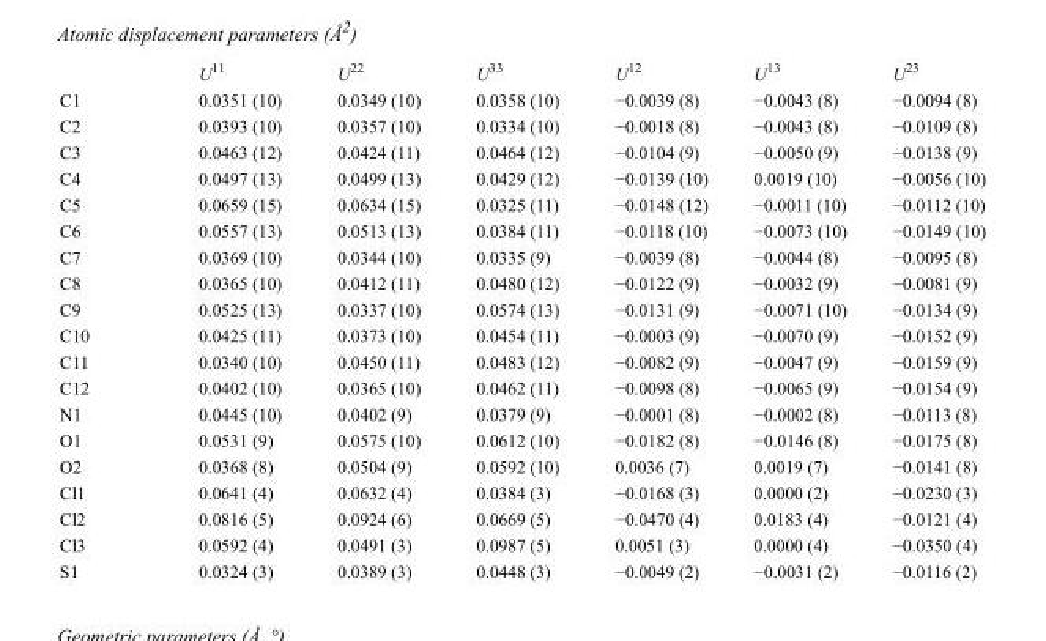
<table><thead><tr><td></td><td>U<sup>11</sup></td><td>U<sup>22</sup></td><td>U<sup>33</sup></td><td>U<sup>12</sup></td><td>U<sup>13</sup></td><td>U<sup>23</sup></td></tr></thead><tbody><tr><td>C1</td><td>0.0351 (10)</td><td>0.0349 (10)</td><td>0.0358 (10)</td><td>−0.0039 (8)</td><td>−0.0043 (8)</td><td>−0.0094 (8)</td></tr><tr><td>C2</td><td>0.0393 (10)</td><td>0.0357 (10)</td><td>0.0334 (10)</td><td>−0.0018 (8)</td><td>−0.0043 (8)</td><td>−0.0109 (8)</td></tr><tr><td>C3</td><td>0.0463 (12)</td><td>0.0424 (11)</td><td>0.0464 (12)</td><td>−0.0104 (9)</td><td>−0.0050 (9)</td><td>−0.0138 (9)</td></tr><tr><td>C4</td><td>0.0497 (13)</td><td>0.0499 (13)</td><td>0.0429 (12)</td><td>−0.0139 (10)</td><td>0.0019 (10)</td><td>−0.0056 (10)</td></tr><tr><td>C5</td><td>0.0659 (15)</td><td>0.0634 (15)</td><td>0.0325 (11)</td><td>−0.0148 (12)</td><td>−0.0011 (10)</td><td>−0.0112 (10)</td></tr><tr><td>C6</td><td>0.0557 (13)</td><td>0.0513 (13)</td><td>0.0384 (11)</td><td>−0.0118 (10)</td><td>−0.0073 (10)</td><td>−0.0149 (10)</td></tr><tr><td>C7</td><td>0.0369 (10)</td><td>0.0344 (10)</td><td>0.0335 (9)</td><td>−0.0039 (8)</td><td>−0.0044 (8)</td><td>−0.0095 (8)</td></tr><tr><td>C8</td><td>0.0365 (10)</td><td>0.0412 (11)</td><td>0.0480 (12)</td><td>−0.0122 (9)</td><td>−0.0032 (9)</td><td>−0.0081 (9)</td></tr><tr><td>C9</td><td>0.0525 (13)</td><td>0.0337 (10)</td><td>0.0574 (13)</td><td>−0.0131 (9)</td><td>−0.0071 (10)</td><td>−0.0134 (9)</td></tr><tr><td>C10</td><td>0.0425 (11)</td><td>0.0373 (10)</td><td>0.0454 (11)</td><td>−0.0003 (9)</td><td>−0.0070 (9)</td><td>−0.0152 (9)</td></tr><tr><td>C11</td><td>0.0340 (10)</td><td>0.0450 (11)</td><td>0.0483 (12)</td><td>−0.0082 (9)</td><td>−0.0047 (9)</td><td>−0.0159 (9)</td></tr><tr><td>C12</td><td>0.0402 (10)</td><td>0.0365 (10)</td><td>0.0462 (11)</td><td>−0.0098 (8)</td><td>−0.0065 (9)</td><td>−0.0154 (9)</td></tr><tr><td>N1</td><td>0.0445 (10)</td><td>0.0402 (9)</td><td>0.0379 (9)</td><td>−0.0001 (8)</td><td>−0.0002 (8)</td><td>−0.0113 (8)</td></tr><tr><td>O1</td><td>0.0531 (9)</td><td>0.0575 (10)</td><td>0.0612 (10)</td><td>−0.0182 (8)</td><td>−0.0146 (8)</td><td>−0.0175 (8)</td></tr><tr><td>O2</td><td>0.0368 (8)</td><td>0.0504 (9)</td><td>0.0592 (10)</td><td>0.0036 (7)</td><td>0.0019 (7)</td><td>−0.0141 (8)</td></tr><tr><td>Cl1</td><td>0.0641 (4)</td><td>0.0632 (4)</td><td>0.0384 (3)</td><td>−0.0168 (3)</td><td>0.0000 (2)</td><td>−0.0230 (3)</td></tr><tr><td>Cl2</td><td>0.0816 (5)</td><td>0.0924 (6)</td><td>0.0669 (5)</td><td>−0.0470 (4)</td><td>0.0183 (4)</td><td>−0.0121 (4)</td></tr><tr><td>Cl3</td><td>0.0592 (4)</td><td>0.0491 (3)</td><td>0.0987 (5)</td><td>0.0051 (3)</td><td>0.0000 (4)</td><td>−0.0350 (4)</td></tr><tr><td>S1</td><td>0.0324 (3)</td><td>0.0389 (3)</td><td>0.0448 (3)</td><td>−0.0049 (2)</td><td>−0.0031 (2)</td><td>−0.0116 (2)</td></tr></tbody></table>